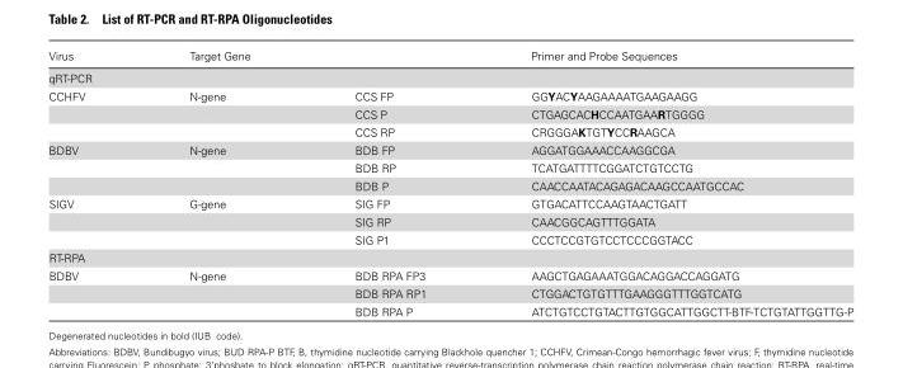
<table><thead><tr><td>Virus</td><td>Target Gene</td><td colspan="2">Primer and Probe Sequences</td></tr><tr><td colspan="4">qRT-PCR</td></tr><tr><td>CCHFV</td><td>N-gene</td><td>CCS FP</td><td>GGYACYAAGAAAATGAAGAAGG</td></tr></thead><tbody><tr><td></td><td></td><td>CCS P</td><td>CTGAGCACHCCAATGAARTGGGG</td></tr><tr><td></td><td></td><td>CCS RP</td><td>CRGGGAKTGTYCCRAAGCA</td></tr><tr><td rowspan="3">BDBV</td><td>N-gene</td><td>BDB FP</td><td>AGGATGGAAACCAAGGCGA</td></tr><tr><td></td><td>BDB RP</td><td>TCATGATTTTCGGATCTGTCCTG</td></tr><tr><td></td><td>BDB P</td><td>CAACCAATACAGAGACAAGCCAATGCCAC</td></tr><tr><td rowspan="3">SIGV</td><td>G-gene</td><td>SIG FP</td><td>GTGACATTCCAAGTAACTGATT</td></tr><tr><td></td><td>SIG RP</td><td>CAACGGCAGTTTGGATA</td></tr><tr><td></td><td>SIG P1</td><td>CCCTCCGTGTCCTCCCGGTACC</td></tr><tr><td colspan="4">RT-RPA</td></tr><tr><td rowspan="3">BDBV</td><td>N-gene</td><td>BDB RPA FP3</td><td>AAGCTGAGAAATGGACAGGACCAGGATG</td></tr><tr><td></td><td>BDB RPA RP1</td><td>CTGGACTGTGTTTGAAGGGTTTGGTCATG</td></tr><tr><td></td><td>BDB RPA P</td><td>ATCTGTCCTGTACTTGTGGCATTGGCTT-BTF-TCTGTATTGGTTG-P</td></tr></tbody></table>